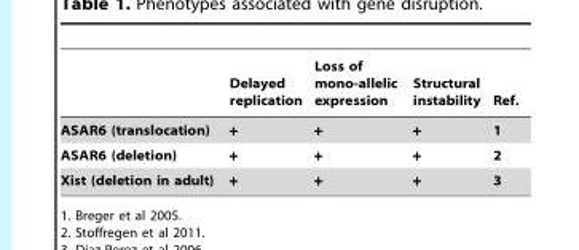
<table><thead><tr><td></td><td>Delayed replication</td><td>Loss of mono-allelic expression</td><td>Structural instability</td><td>Ref.</td></tr></thead><tbody><tr><td>ASAR6 (translocation)</td><td>+</td><td>+</td><td>+</td><td>1</td></tr><tr><td>ASAR6 (deletion)</td><td>+</td><td>+</td><td>+</td><td>2</td></tr><tr><td>Xist (deletion in adult)</td><td>+</td><td>+</td><td>+</td><td>3</td></tr></tbody></table>